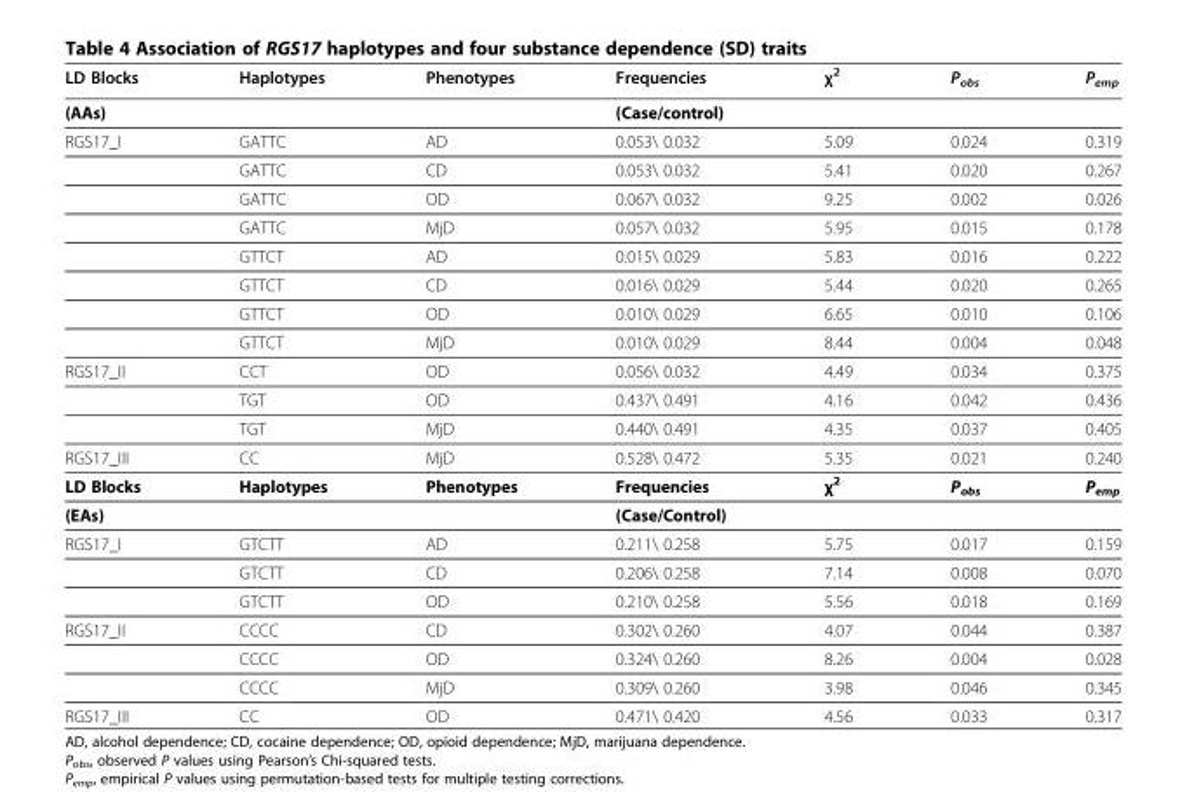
<table><thead><tr><td>LD Blocks</td><td>Haplotypes</td><td>Phenotypes</td><td>Frequencies</td><td>χ<sup>2</sup></td><td>P<sub>obs</sub></td><td>P<sub>emp</sub></td></tr></thead><tbody><tr><td>(AAs)</td><td></td><td></td><td>(Case/control)</td><td></td><td></td><td></td></tr><tr><td rowspan="8">RGS17_I</td><td>GATTC</td><td>AD</td><td>0.053\ 0.032</td><td>5.09</td><td>0.024</td><td>0.319</td></tr><tr><td>GATTC</td><td>CD</td><td>0.053\ 0.032</td><td>5.41</td><td>0.020</td><td>0.267</td></tr><tr><td>GATTC</td><td>OD</td><td>0.067\ 0.032</td><td>9.25</td><td>0.002</td><td>0.026</td></tr><tr><td>GATTC</td><td>MjD</td><td>0.057\ 0.032</td><td>5.95</td><td>0.015</td><td>0.178</td></tr><tr><td>GTTCT</td><td>AD</td><td>0.015\ 0.029</td><td>5.83</td><td>0.016</td><td>0.222</td></tr><tr><td>GTTCT</td><td>CD</td><td>0.016\ 0.029</td><td>5.44</td><td>0.020</td><td>0.265</td></tr><tr><td>GTTCT</td><td>OD</td><td>0.010\ 0.029</td><td>6.65</td><td>0.010</td><td>0.106</td></tr><tr><td>GTTCT</td><td>MjD</td><td>0.010\ 0.029</td><td>8.44</td><td>0.004</td><td>0.048</td></tr><tr><td rowspan="3">RGS17_II</td><td>CCT</td><td>OD</td><td>0.056\ 0.032</td><td>4.49</td><td>0.034</td><td>0.375</td></tr><tr><td>TGT</td><td>OD</td><td>0.437\ 0.491</td><td>4.16</td><td>0.042</td><td>0.436</td></tr><tr><td>TGT</td><td>MjD</td><td>0.440\ 0.491</td><td>4.35</td><td>0.037</td><td>0.405</td></tr><tr><td>RGS17_III</td><td>CC</td><td>MjD</td><td>0.528\ 0.472</td><td>5.35</td><td>0.021</td><td>0.240</td></tr><tr><td>LD Blocks</td><td>Haplotypes</td><td>Phenotypes</td><td>Frequencies</td><td>χ<sup>2</sup></td><td>P<sub>obs</sub></td><td>P<sub>emp</sub></td></tr><tr><td>(EAs)</td><td></td><td></td><td>(Case/Control)</td><td></td><td></td><td></td></tr><tr><td rowspan="3">RGS17_I</td><td>GTCTT</td><td>AD</td><td>0.211\ 0.258</td><td>5.75</td><td>0.017</td><td>0.159</td></tr><tr><td>GTCTT</td><td>CD</td><td>0.206\ 0.258</td><td>7.14</td><td>0.008</td><td>0.070</td></tr><tr><td>GTCTT</td><td>OD</td><td>0.210\ 0.258</td><td>5.56</td><td>0.018</td><td>0.169</td></tr><tr><td rowspan="3">RGS17_II</td><td>CCCC</td><td>CD</td><td>0.302\ 0.260</td><td>4.07</td><td>0.044</td><td>0.387</td></tr><tr><td>CCCC</td><td>OD</td><td>0.324\ 0.260</td><td>8.26</td><td>0.004</td><td>0.028</td></tr><tr><td>CCCC</td><td>MjD</td><td>0.309\ 0.260</td><td>3.98</td><td>0.046</td><td>0.345</td></tr><tr><td>RGS17_III</td><td>CC</td><td>OD</td><td>0.471\ 0.420</td><td>4.56</td><td>0.033</td><td>0.317</td></tr></tbody></table>